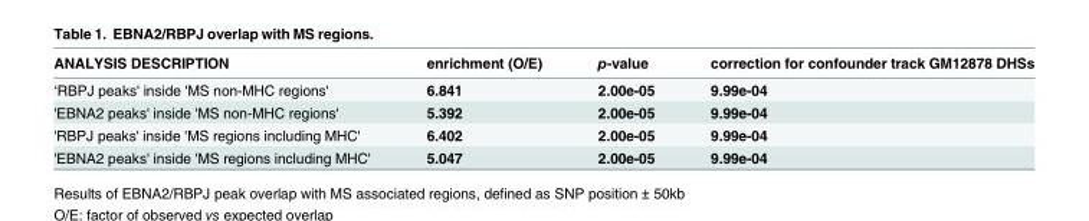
<table><thead><tr><td>ANALYSIS DESCRIPTION</td><td>enrichment (O/E)</td><td>p-value</td><td>correction for confounder track GM12878 DHSs</td></tr></thead><tbody><tr><td>‘RBPJ peaks&#x27; inside &#x27;MS non-MHC regions&#x27;</td><td>6.841</td><td>2.00e-05</td><td>9.99e-04</td></tr><tr><td>&#x27;EBNA2 peaks&#x27; inside &#x27;MS non-MHC regions&#x27;</td><td>5.392</td><td>2.00e-05</td><td>9.99e-04</td></tr><tr><td>&#x27;RBPJ peaks&#x27; inside &#x27;MS regions including MHC&#x27;</td><td>6.402</td><td>2.00e-05</td><td>9.99e-04</td></tr><tr><td>&#x27;EBNA2 peaks&#x27; inside &#x27;MS regions including MHC&#x27;</td><td>5.047</td><td>2.00e-05</td><td>9.99e-04</td></tr></tbody></table>